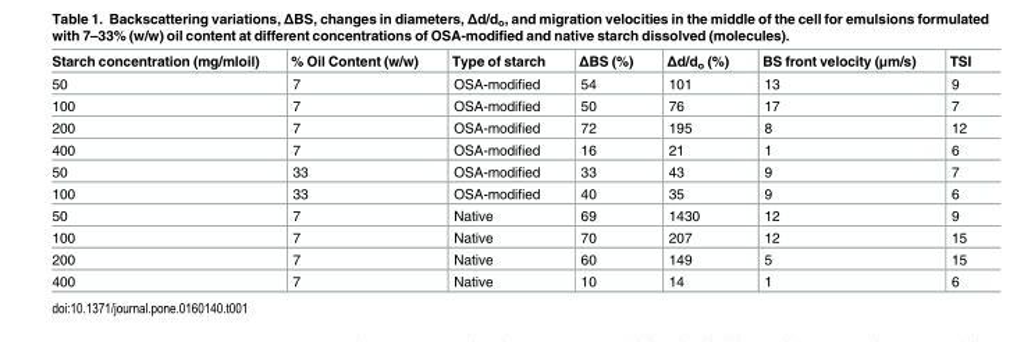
<table><thead><tr><td>Starch concentration (mg/mloil)</td><td>% Oil Content (w/w)</td><td>Type of starch</td><td>ΔBS (%)</td><td>Δd/d<sub>o</sub> (%)</td><td>BS front velocity (μm/s)</td><td>TSI</td></tr></thead><tbody><tr><td>50</td><td>7</td><td>OSA-modified</td><td>54</td><td>101</td><td>13</td><td>9</td></tr><tr><td>100</td><td>7</td><td>OSA-modified</td><td>50</td><td>76</td><td>17</td><td>7</td></tr><tr><td>200</td><td>7</td><td>OSA-modified</td><td>72</td><td>195</td><td>8</td><td>12</td></tr><tr><td>400</td><td>7</td><td>OSA-modified</td><td>16</td><td>21</td><td>1</td><td>6</td></tr><tr><td>50</td><td>33</td><td>OSA-modified</td><td>33</td><td>43</td><td>9</td><td>7</td></tr><tr><td>100</td><td>33</td><td>OSA-modified</td><td>40</td><td>35</td><td>9</td><td>6</td></tr><tr><td>50</td><td>7</td><td>Native</td><td>69</td><td>1430</td><td>12</td><td>9</td></tr><tr><td>100</td><td>7</td><td>Native</td><td>70</td><td>207</td><td>12</td><td>15</td></tr><tr><td>200</td><td>7</td><td>Native</td><td>60</td><td>149</td><td>5</td><td>15</td></tr><tr><td>400</td><td>7</td><td>Native</td><td>10</td><td>14</td><td>1</td><td>6</td></tr></tbody></table>